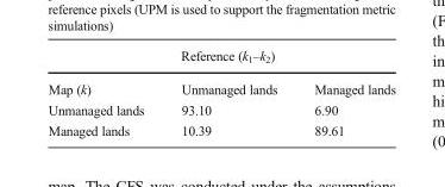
<table><thead><tr><td rowspan="2">Map (k)</td><td colspan="2">Reference (k<sub>1</sub>–k<sub>2</sub>)</td></tr><tr><td>Unmanaged lands</td><td>Managed lands</td></tr></thead><tbody><tr><td>Unmanaged lands</td><td>93.10</td><td>6.90</td></tr><tr><td>Managed lands</td><td>10.39</td><td>89.61</td></tr></tbody></table>